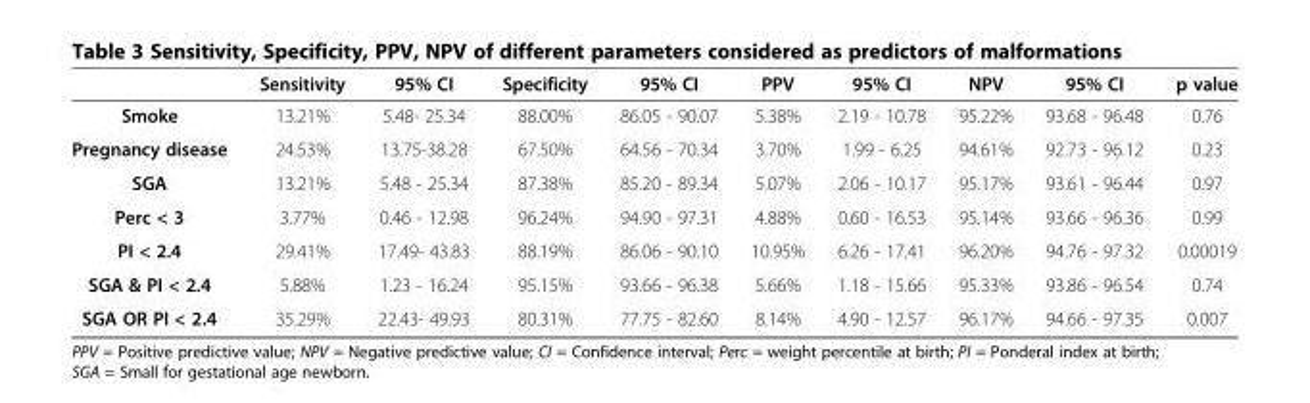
<table><thead><tr><td></td><td>Sensitivity</td><td>95% CI</td><td>Specificity</td><td>95% CI</td><td>PPV</td><td>95% CI</td><td>NPV</td><td>95% CI</td><td>p value</td></tr></thead><tbody><tr><td>Smoke</td><td>13.21%</td><td>5.48- 25.34</td><td>88.00%</td><td>86.05 - 90.07</td><td>5.38%</td><td>2.19 - 10.78</td><td>95.22%</td><td>93.68 - 96.48</td><td>0.76</td></tr><tr><td>Pregnancy disease</td><td>24.53%</td><td>13.75-38.28</td><td>67.50%</td><td>64.56 - 70.34</td><td>3.70%</td><td>1.99 - 6.25</td><td>94.61%</td><td>92.73 - 96.12</td><td>0.23</td></tr><tr><td>SGA</td><td>13.21%</td><td>5.48 - 25.34</td><td>87.38%</td><td>85.20 - 89.34</td><td>5.07%</td><td>2.06 - 10.17</td><td>95.17%</td><td>93.61 - 96.44</td><td>0.97</td></tr><tr><td>Perc &lt; 3</td><td>3.77%</td><td>0.46 - 12.98</td><td>96.24%</td><td>94.90 - 97.31</td><td>4.88%</td><td>0.60 - 16.53</td><td>95.14%</td><td>93.66 - 96.36</td><td>0.99</td></tr><tr><td>PI &lt; 2.4</td><td>29.41%</td><td>17.49- 43.83</td><td>88.19%</td><td>86.06 - 90.10</td><td>10.95%</td><td>6.26 - 17.41</td><td>96.20%</td><td>94.76 - 97.32</td><td>0.00019</td></tr><tr><td>SGA &amp; PI &lt; 2.4</td><td>5.88%</td><td>1.23 - 16.24</td><td>95.15%</td><td>93.66 - 96.38</td><td>5.66%</td><td>1.18 - 15.66</td><td>95.33%</td><td>93.86 - 96.54</td><td>0.74</td></tr><tr><td>SGA OR PI &lt; 2.4</td><td>35.29%</td><td>22.43- 49.93</td><td>80.31%</td><td>77.75 - 82.60</td><td>8.14%</td><td>4.90 - 12.57</td><td>96.17%</td><td>94.66 - 97.35</td><td>0.007</td></tr></tbody></table>